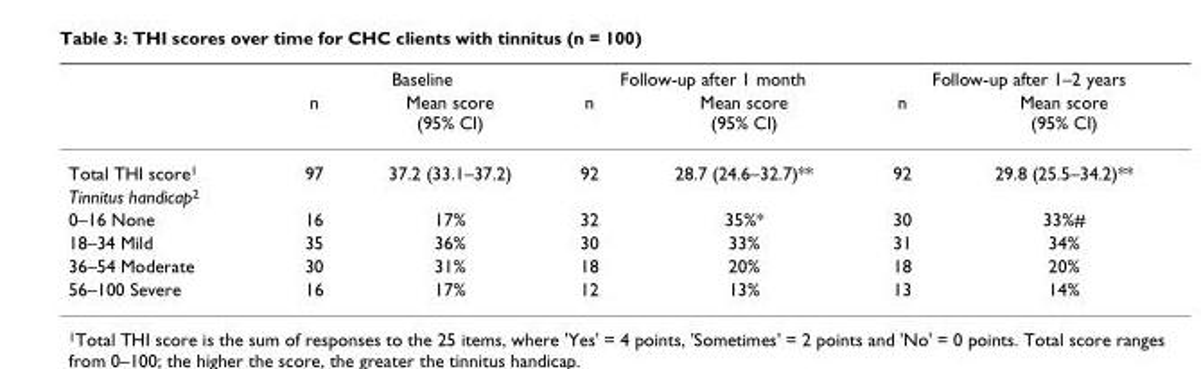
<table><thead><tr><td rowspan="2"></td><td colspan="2">Baseline</td><td colspan="2">Follow-up after 1 month</td><td colspan="2">Follow-up after 1–2 years</td></tr><tr><td>n</td><td>Mean score (95% CI)</td><td>n</td><td>Mean score (95% CI)</td><td>n</td><td>Mean score (95% CI)</td></tr></thead><tbody><tr><td>Total THI score<sup>1</sup></td><td>97</td><td>37.2 (33.1–37.2)</td><td>92</td><td>28.7 (24.6–32.7)**</td><td>92</td><td>29.8 (25.5–34.2)**</td></tr><tr><td colspan="7">Tinnitus handicap<sup>2</sup></td></tr><tr><td>0–16 None</td><td>16</td><td>17%</td><td>32</td><td>35%*</td><td>30</td><td>33%#</td></tr><tr><td>18–34 Mild</td><td>35</td><td>36%</td><td>30</td><td>33%</td><td>31</td><td>34%</td></tr><tr><td>36–54 Moderate</td><td>30</td><td>31%</td><td>18</td><td>20%</td><td>18</td><td>20%</td></tr><tr><td>56–100 Severe</td><td>16</td><td>17%</td><td>12</td><td>13%</td><td>13</td><td>14%</td></tr></tbody></table>